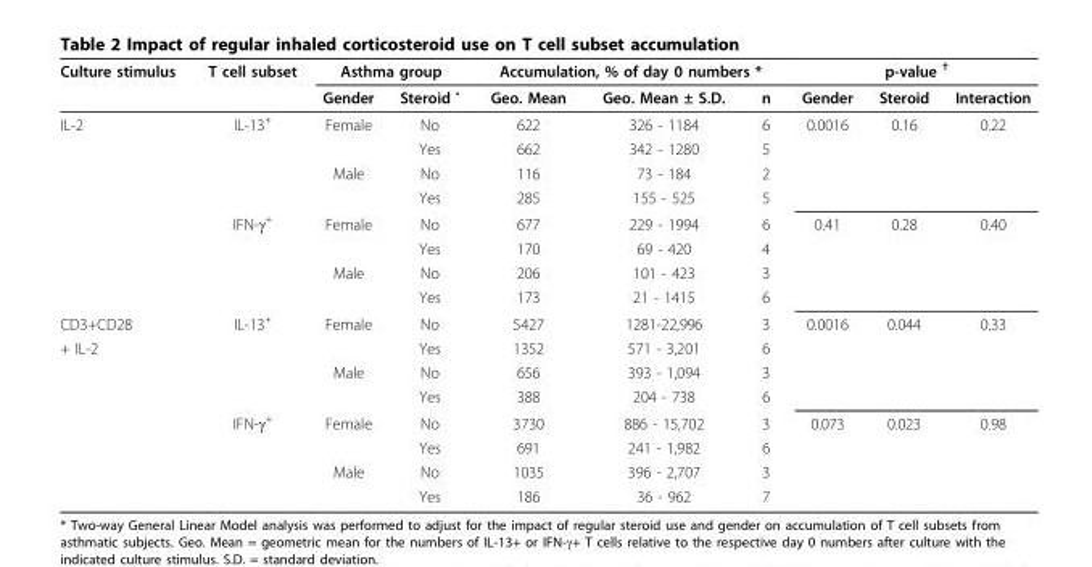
<table><thead><tr><td rowspan="2">Culture stimulus</td><td rowspan="2">T cell subset</td><td colspan="2">Asthma group</td><td colspan="3">Accumulation, % of day 0 numbers *</td><td colspan="3">p-value <sup>†</sup></td></tr><tr><td>Gender</td><td>Steroid <sup>•</sup></td><td>Geo. Mean</td><td>Geo. Mean ± S.D.</td><td>n</td><td>Gender</td><td>Steroid</td><td>Interaction</td></tr></thead><tbody><tr><td rowspan="8">IL-2</td><td>IL-13<sup>+</sup></td><td>Female</td><td>No</td><td>622</td><td>326 - 1184</td><td>6</td><td>0.0016</td><td>0.16</td><td>0.22</td></tr><tr><td></td><td></td><td>Yes</td><td>662</td><td>342 - 1280</td><td>5</td><td></td><td></td><td></td></tr><tr><td></td><td>Male</td><td>No</td><td>116</td><td>73 - 184</td><td>2</td><td></td><td></td><td></td></tr><tr><td></td><td></td><td>Yes</td><td>285</td><td>155 - 525</td><td>5</td><td></td><td></td><td></td></tr><tr><td>IFN-γ<sup>+</sup></td><td>Female</td><td>No</td><td>677</td><td>229 - 1994</td><td>6</td><td>0.41</td><td>0.28</td><td>0.40</td></tr><tr><td></td><td></td><td>Yes</td><td>170</td><td>69 - 420</td><td>4</td><td></td><td></td><td></td></tr><tr><td></td><td>Male</td><td>No</td><td>206</td><td>101 - 423</td><td>3</td><td></td><td></td><td></td></tr><tr><td></td><td></td><td>Yes</td><td>173</td><td>21 - 1415</td><td>6</td><td></td><td></td><td></td></tr><tr><td>CD3+CD28</td><td>IL-13<sup>+</sup></td><td>Female</td><td>No</td><td>5427</td><td>1281-22,996</td><td>3</td><td>0.0016</td><td>0.044</td><td>0.33</td></tr><tr><td rowspan="7">+ IL-2</td><td></td><td></td><td>Yes</td><td>1352</td><td>571 - 3,201</td><td>6</td><td></td><td></td><td></td></tr><tr><td></td><td>Male</td><td>No</td><td>656</td><td>393 - 1,094</td><td>3</td><td></td><td></td><td></td></tr><tr><td></td><td></td><td>Yes</td><td>388</td><td>204 - 738</td><td>6</td><td></td><td></td><td></td></tr><tr><td>IFN-γ<sup>+</sup></td><td>Female</td><td>No</td><td>3730</td><td>886 - 15,702</td><td>3</td><td>0.073</td><td>0.023</td><td>0.98</td></tr><tr><td></td><td></td><td>Yes</td><td>691</td><td>241 - 1,982</td><td>6</td><td></td><td></td><td></td></tr><tr><td></td><td>Male</td><td>No</td><td>1035</td><td>396 - 2,707</td><td>3</td><td></td><td></td><td></td></tr><tr><td></td><td></td><td>Yes</td><td>186</td><td>36 - 962</td><td>7</td><td></td><td></td><td></td></tr></tbody></table>